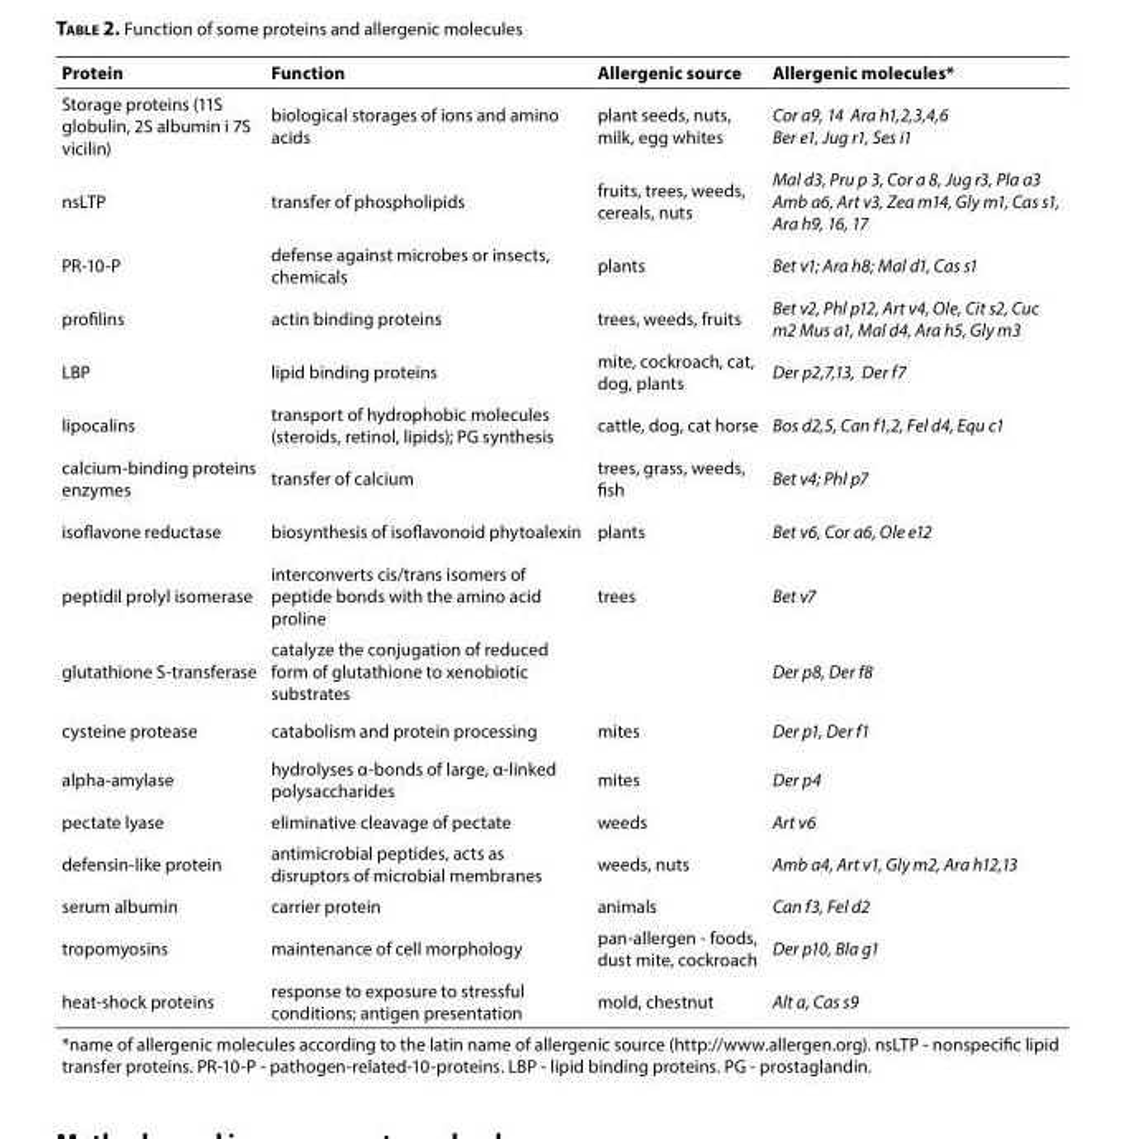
<table><thead><tr><td>Protein</td><td>Function</td><td>Allergenic source</td><td>Allergenic molecules*</td></tr></thead><tbody><tr><td>Storage proteins (11S globulin, 2S albumin i 7S vicilin)</td><td>biological storages of ions and amino acids</td><td>plant seeds, nuts, milk, egg whites</td><td>Cor a9, 14 Ara h1,2,3,4,6 Ber e1, Jug r1, Ses i1</td></tr><tr><td>nsLTP</td><td>transfer of phospholipids</td><td>fruits, trees, weeds, cereals, nuts</td><td>Mal d3, Pru p 3, Cor a 8, Jug r3, Pla a3 Amb a6, Art v3, Zea m14, Gly m1, Cas s1, Ara h9, 16, 17</td></tr><tr><td>PR-10-P</td><td>defense against microbes or insects, chemicals</td><td>plants</td><td>Bet v1; Ara h8; Mal d1, Cas s1</td></tr><tr><td>profilins</td><td>actin binding proteins</td><td>trees, weeds, fruits</td><td>Bet v2, Phl p12, Art v4, Ole, Cit s2, Cuc m2 Mus a1, Mal d4, Ara h5, Gly m3</td></tr><tr><td>LBP</td><td>lipid binding proteins</td><td>mite, cockroach, cat, dog, plants</td><td>Der p2,7,13, Der f7</td></tr><tr><td>lipocalins</td><td>transport of hydrophobic molecules (steroids, retinol, lipids); PG synthesis</td><td>cattle, dog, cat horse</td><td>Bos d2,5, Can f1,2, Fel d4, Equ c1</td></tr><tr><td>calcium-binding proteins enzymes</td><td>transfer of calcium</td><td>trees, grass, weeds, fish</td><td>Bet v4; Phl p7</td></tr><tr><td>isoflavone reductase</td><td>biosynthesis of isoflavonoid phytoalexin</td><td>plants</td><td>Bet v6, Cor a6, Ole e12</td></tr><tr><td>peptidil prolyl isomerase</td><td>interconverts cis/trans isomers of peptide bonds with the amino acid proline</td><td>trees</td><td>Bet v7</td></tr><tr><td>glutathione S-transferase</td><td>catalyze the conjugation of reduced form of glutathione to xenobiotic substrates</td><td></td><td>Der p8, Der f8</td></tr><tr><td>cysteine protease</td><td>catabolism and protein processing</td><td>mites</td><td>Der p1, Der f1</td></tr><tr><td>alpha-amylase</td><td>hydrolyses α-bonds of large, α-linked polysaccharides</td><td>mites</td><td>Der p4</td></tr><tr><td>pectate lyase</td><td>eliminative cleavage of pectate</td><td>weeds</td><td>Art v6</td></tr><tr><td>defensin-like protein</td><td>antimicrobial peptides, acts as disruptors of microbial membranes</td><td>weeds, nuts</td><td>Amb a4, Art v1, Gly m2, Ara h12,13</td></tr><tr><td>serum albumin</td><td>carrier protein</td><td>animals</td><td>Can f3, Fel d2</td></tr><tr><td>tropomyosins</td><td>maintenance of cell morphology</td><td>pan-allergen - foods, dust mite, cockroach</td><td>Der p10, Bla g1</td></tr><tr><td>heat-shock proteins</td><td>response to exposure to stressful conditions; antigen presentation</td><td>mold, chestnut</td><td>Alt a, Cas s9</td></tr><tr><td colspan="4">*name of allergenic molecules according to the latin name of allergenic source (http://www.allergen.org). nsLTP - nonspecific lipid transfer proteins. PR-10-P - pathogen-related-10-proteins. LBP - lipid binding proteins. PG - prostaglandin.</td></tr></tbody></table>